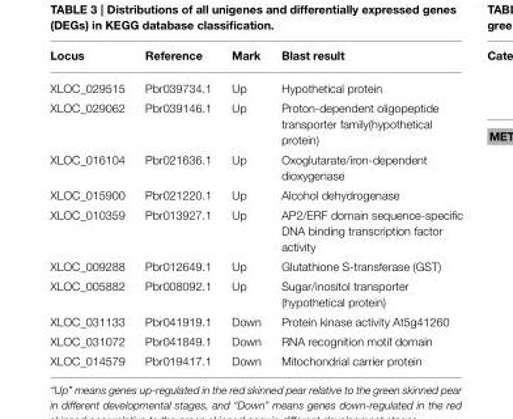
<table><thead><tr><td>Locus</td><td>Reference</td><td>Mark</td><td>Blast result</td></tr></thead><tbody><tr><td>XLOC_029515</td><td>Pbr039734.1</td><td>Up</td><td>Hypothetical protein</td></tr><tr><td>XLOC_029062</td><td>Pbr039146.1</td><td>Up</td><td>Proton-dependent oligopeptide transporter family(hypothetical protein)</td></tr><tr><td>XLOC_016104</td><td>Pbr021636.1</td><td>Up</td><td>Oxoglutarate/iron-dependent dioxygenase</td></tr><tr><td>XLOC_015900</td><td>Pbr021220.1</td><td>Up</td><td>Alcohol dehydrogenase</td></tr><tr><td>XLOC_010359</td><td>Pbr013927.1</td><td>Up</td><td>AP2/ERF domain sequence-specific DNA binding transcription factor activity</td></tr><tr><td>XLOC_009288</td><td>Pbr012649.1</td><td>Up</td><td>Glutathione S-transferase (GST)</td></tr><tr><td>XLOC_005882</td><td>Pbr008092.1</td><td>Up</td><td>Sugar/inositol transporter (hypothetical protein)</td></tr><tr><td>XLOC_031133</td><td>Pbr041919.1</td><td>Down</td><td>Protein kinase activity At5g41260</td></tr><tr><td>XLOC_031072</td><td>Pbr041849.1</td><td>Down</td><td>RNA recognition motif domain</td></tr><tr><td>XLOC_014579</td><td>Pbr019417.1</td><td>Down</td><td>Mitochondrial carrier protein</td></tr></tbody></table>